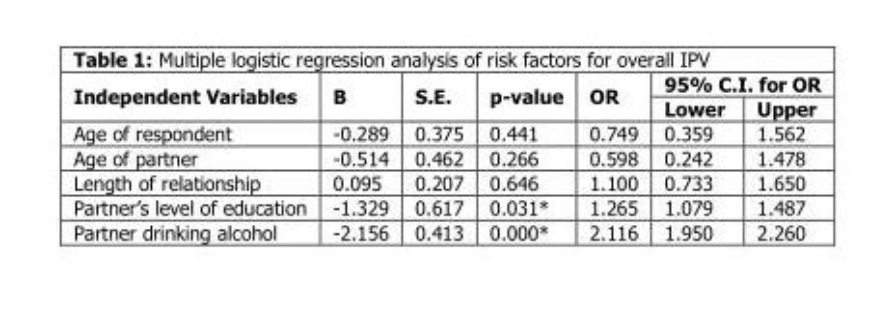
<table><thead><tr><td rowspan="2">Independent Variables</td><td rowspan="2">B</td><td rowspan="2">S.E.</td><td rowspan="2">p-value</td><td rowspan="2">OR</td><td colspan="2">95% C.I. for OR</td></tr><tr><td>Lower</td><td>Upper</td></tr></thead><tbody><tr><td>Age of respondent</td><td>-0.289</td><td>0.375</td><td>0.441</td><td>0.749</td><td>0.359</td><td>1.562</td></tr><tr><td>Age of partner</td><td>-0.514</td><td>0.462</td><td>0.266</td><td>0.598</td><td>0.242</td><td>1.478</td></tr><tr><td>Length of relationship</td><td>0.095</td><td>0.207</td><td>0.646</td><td>1.100</td><td>0.733</td><td>1.650</td></tr><tr><td>Partner’s level of education</td><td>-1.329</td><td>0.617</td><td>0.031*</td><td>1.265</td><td>1.079</td><td>1.487</td></tr><tr><td>Partner drinking alcohol</td><td>-2.156</td><td>0.413</td><td>0.000*</td><td>2.116</td><td>1.950</td><td>2.260</td></tr></tbody></table>